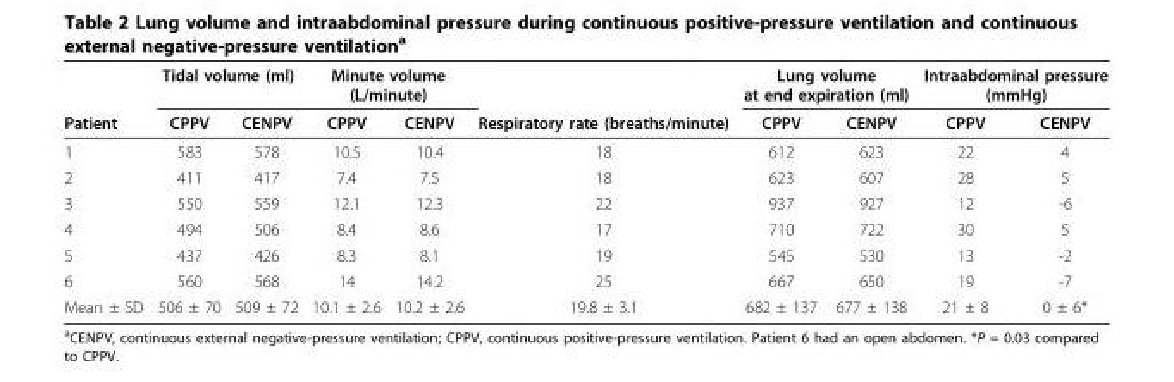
<table><thead><tr><td rowspan="2">Patient</td><td colspan="2">Tidal volume (ml)</td><td colspan="2">Minute volume (L/minute)</td><td rowspan="2">Respiratory rate (breaths/minute)</td><td colspan="2">Lung volume at end expiration (ml)</td><td colspan="2">Intraabdominal pressure (mmHg)</td></tr><tr><td>CPPV</td><td>CENPV</td><td>CPPV</td><td>CENPV</td><td>CPPV</td><td>CENPV</td><td>CPPV</td><td>CENPV</td></tr></thead><tbody><tr><td>1</td><td>583</td><td>578</td><td>10.5</td><td>10.4</td><td>18</td><td>612</td><td>623</td><td>22</td><td>4</td></tr><tr><td>2</td><td>411</td><td>417</td><td>7.4</td><td>7.5</td><td>18</td><td>623</td><td>607</td><td>28</td><td>5</td></tr><tr><td>3</td><td>550</td><td>559</td><td>12.1</td><td>12.3</td><td>22</td><td>937</td><td>927</td><td>12</td><td>-6</td></tr><tr><td>4</td><td>494</td><td>506</td><td>8.4</td><td>8.6</td><td>17</td><td>710</td><td>722</td><td>30</td><td>5</td></tr><tr><td>5</td><td>437</td><td>426</td><td>8.3</td><td>8.1</td><td>19</td><td>545</td><td>530</td><td>13</td><td>-2</td></tr><tr><td>6</td><td>560</td><td>568</td><td>14</td><td>14.2</td><td>25</td><td>667</td><td>650</td><td>19</td><td>-7</td></tr><tr><td>Mean ± SD</td><td>506 ± 70</td><td>509 ± 72</td><td>10.1 ± 2.6</td><td>10.2 ± 2.6</td><td>19.8 ± 3.1</td><td>682 ± 137</td><td>677 ± 138</td><td>21 ± 8</td><td>0 ± 6*</td></tr></tbody></table>